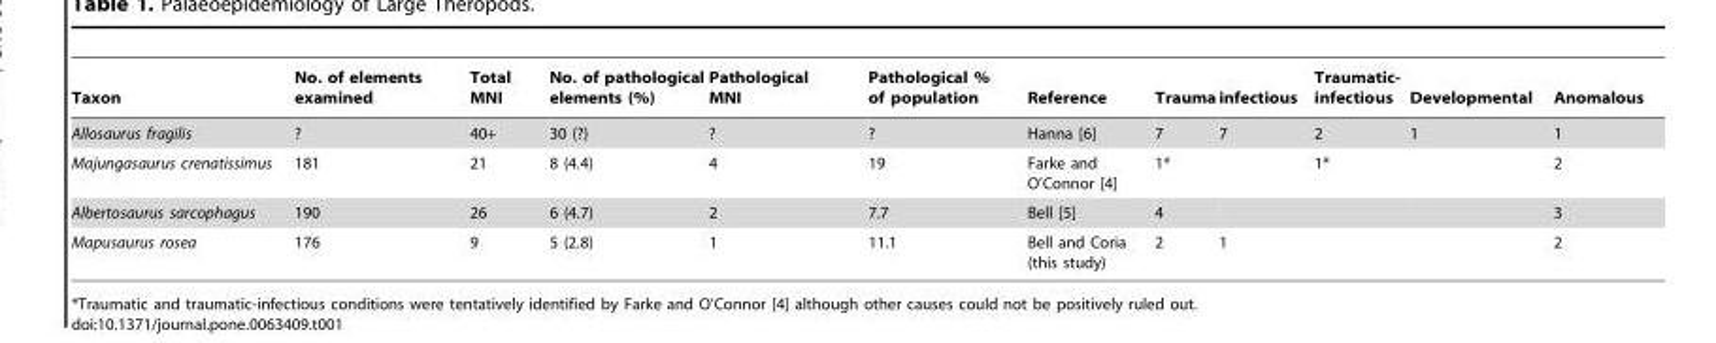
<table><thead><tr><td>Taxon</td><td>No. of elements examined</td><td>Total MNI</td><td>No. of pathological elements (%)</td><td>Pathological MNI</td><td>Pathological % of population</td><td>Reference</td><td>Trauma</td><td>infectious</td><td>Traumatic- infectious</td><td>Developmental</td><td>Anomalous</td></tr></thead><tbody><tr><td>Allosaurus fragilis</td><td>?</td><td>40+</td><td>30 (?)</td><td>?</td><td>?</td><td>Hanna [6]</td><td>7</td><td>7</td><td>2</td><td>1</td><td>1</td></tr><tr><td>Majungasaurus crenatissimus</td><td>181</td><td>21</td><td>8 (4.4)</td><td>4</td><td>19</td><td>Farke and O’Connor [4]</td><td>1*</td><td></td><td>1*</td><td></td><td>2</td></tr><tr><td>Albertosaurus sarcophagus</td><td>190</td><td>26</td><td>6 (4.7)</td><td>2</td><td>7.7</td><td>Bell [5]</td><td>4</td><td></td><td></td><td></td><td>3</td></tr><tr><td>Mapusaurus rosea</td><td>176</td><td>9</td><td>5 (2.8)</td><td>1</td><td>11.1</td><td>Bell and Coria (this study)</td><td>2</td><td>1</td><td></td><td></td><td>2</td></tr></tbody></table>